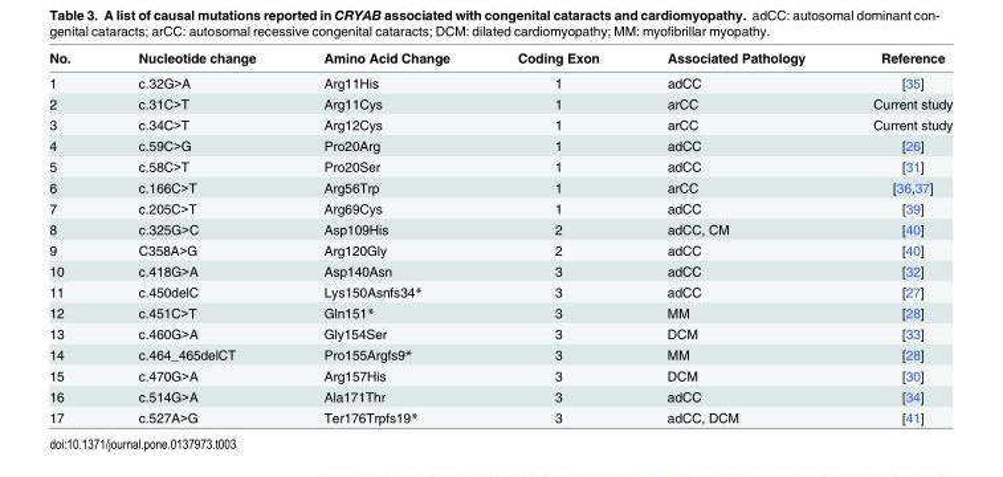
<table><thead><tr><td>No.</td><td>Nucleotide change</td><td>Amino Acid Change</td><td>Coding Exon</td><td>Associated Pathology</td><td>Reference</td></tr></thead><tbody><tr><td>1</td><td>c.32G&gt;A</td><td>Arg11His</td><td>1</td><td>adCC</td><td>[35]</td></tr><tr><td>2</td><td>c.31C&gt;T</td><td>Arg11Cys</td><td>1</td><td>arCC</td><td>Current study</td></tr><tr><td>3</td><td>c.34C&gt;T</td><td>Arg12Cys</td><td>1</td><td>arCC</td><td>Current study</td></tr><tr><td>4</td><td>c.59C&gt;G</td><td>Pro20Arg</td><td>1</td><td>adCC</td><td>[26]</td></tr><tr><td>5</td><td>c.58C&gt;T</td><td>Pro20Ser</td><td>1</td><td>adCC</td><td>[31]</td></tr><tr><td>6</td><td>c.166C&gt;T</td><td>Arg56Trp</td><td>1</td><td>arCC</td><td>[36,37]</td></tr><tr><td>7</td><td>c.205C&gt;T</td><td>Arg69Cys</td><td>1</td><td>adCC</td><td>[39]</td></tr><tr><td>8</td><td>c.325G&gt;C</td><td>Asp109His</td><td>2</td><td>adCC, CM</td><td>[40]</td></tr><tr><td>9</td><td>C358A&gt;G</td><td>Arg120Gly</td><td>2</td><td>adCC</td><td>[40]</td></tr><tr><td>10</td><td>c.418G&gt;A</td><td>Asp140Asn</td><td>3</td><td>adCC</td><td>[32]</td></tr><tr><td>11</td><td>c.450delC</td><td>Lys150Asnfs34*</td><td>3</td><td>adCC</td><td>[27]</td></tr><tr><td>12</td><td>c.451C&gt;T</td><td>Gln151*</td><td>3</td><td>MM</td><td>[28]</td></tr><tr><td>13</td><td>c.460G&gt;A</td><td>Gly154Ser</td><td>3</td><td>DCM</td><td>[33]</td></tr><tr><td>14</td><td>c.464_465delCT</td><td>Pro155Argfs9*</td><td>3</td><td>MM</td><td>[28]</td></tr><tr><td>15</td><td>c.470G&gt;A</td><td>Arg157His</td><td>3</td><td>DCM</td><td>[30]</td></tr><tr><td>16</td><td>c.514G&gt;A</td><td>Ala171Thr</td><td>3</td><td>adCC</td><td>[34]</td></tr><tr><td>17</td><td>c.527A&gt;G</td><td>Ter176Trpfs19*</td><td>3</td><td>adCC, DCM</td><td>[41]</td></tr></tbody></table>